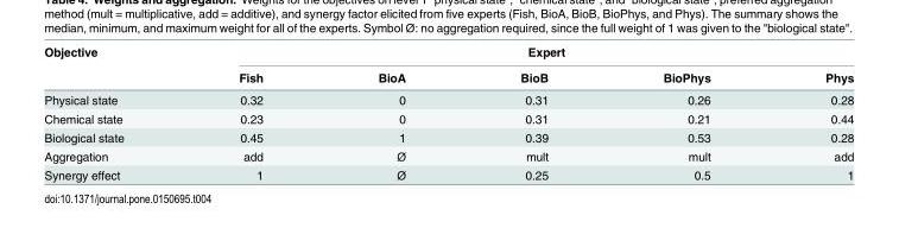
<table><thead><tr><td rowspan="2">Objective</td><td colspan="5">Expert</td></tr><tr><td>Fish</td><td>BioA</td><td>BioB</td><td>BioPhys</td><td>Phys</td></tr></thead><tbody><tr><td>Physical state</td><td>0.32</td><td>0</td><td>0.31</td><td>0.26</td><td>0.28</td></tr><tr><td>Chemical state</td><td>0.23</td><td>0</td><td>0.31</td><td>0.21</td><td>0.44</td></tr><tr><td>Biological state</td><td>0.45</td><td>1</td><td>0.39</td><td>0.53</td><td>0.28</td></tr><tr><td>Aggregation</td><td>add</td><td>Ø</td><td>mult</td><td>mult</td><td>add</td></tr><tr><td>Synergy effect</td><td>1</td><td>Ø</td><td>0.25</td><td>0.5</td><td>1</td></tr></tbody></table>